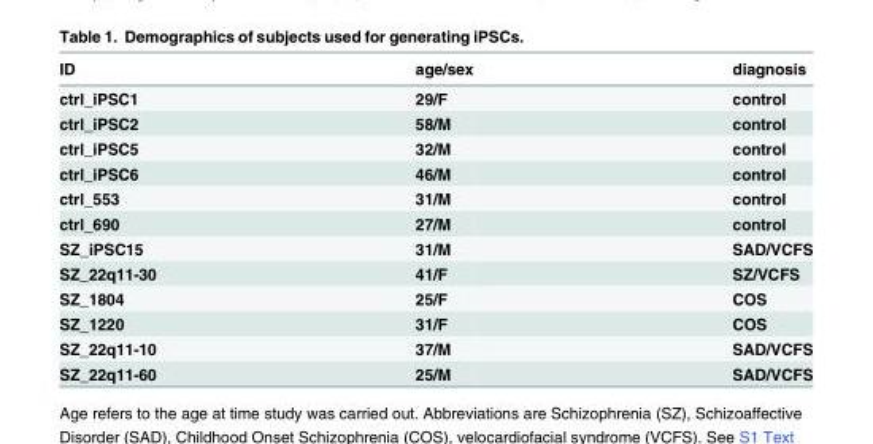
<table><thead><tr><td>ID</td><td>age/sex</td><td>diagnosis</td></tr></thead><tbody><tr><td>ctrl_iPSC1</td><td>29/F</td><td>control</td></tr><tr><td>ctrl_iPSC2</td><td>58/M</td><td>control</td></tr><tr><td>ctrl_iPSC5</td><td>32/M</td><td>control</td></tr><tr><td>ctrl_iPSC6</td><td>46/M</td><td>control</td></tr><tr><td>ctrl_553</td><td>31/M</td><td>control</td></tr><tr><td>ctrl_690</td><td>27/M</td><td>control</td></tr><tr><td>SZ_iPSC15</td><td>31/M</td><td>SAD/VCFS</td></tr><tr><td>SZ_22q11-30</td><td>41/F</td><td>SZ/VCFS</td></tr><tr><td>SZ_1804</td><td>25/F</td><td>COS</td></tr><tr><td>SZ_1220</td><td>31/F</td><td>COS</td></tr><tr><td>SZ_22q11-10</td><td>37/M</td><td>SAD/VCFS</td></tr><tr><td>SZ_22q11-60</td><td>25/M</td><td>SAD/VCFS</td></tr></tbody></table>